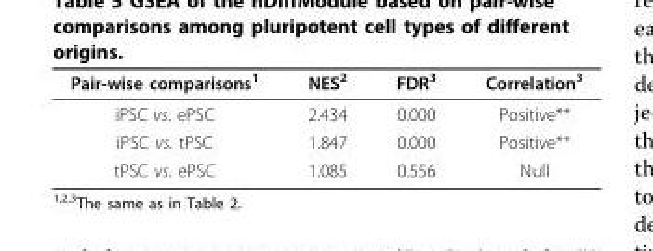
<table><thead><tr><td>Pair-wise comparisons<sup>1</sup></td><td>NES<sup>2</sup></td><td>FDR<sup>3</sup></td><td>Correlation<sup>3</sup></td></tr></thead><tbody><tr><td>iPSC vs. ePSC</td><td>2.434</td><td>0.000</td><td>Positive**</td></tr><tr><td>iPSC vs. tPSC</td><td>1.847</td><td>0.000</td><td>Positive**</td></tr><tr><td>tPSC vs. ePSC</td><td>1.085</td><td>0.556</td><td>Null</td></tr></tbody></table>